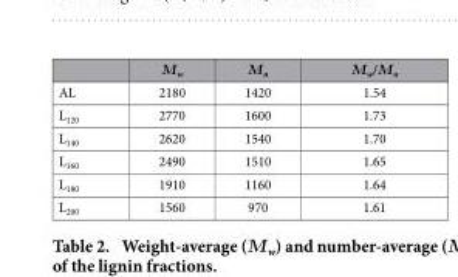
<table><thead><tr><td></td><td>Μ<sub>w</sub></td><td>Μ<sub>n</sub></td><td>Μ<sub>w</sub>/Μ<sub>n</sub></td></tr></thead><tbody><tr><td>AL</td><td>2180</td><td>1420</td><td>1.54</td></tr><tr><td>L<sub>120</sub></td><td>2770</td><td>1600</td><td>1.73</td></tr><tr><td>L<sub>140</sub></td><td>2620</td><td>1540</td><td>1.70</td></tr><tr><td>L<sub>160</sub></td><td>2490</td><td>1510</td><td>1.65</td></tr><tr><td>L<sub>180</sub></td><td>1910</td><td>1160</td><td>1.64</td></tr><tr><td>L<sub>200</sub></td><td>1560</td><td>970</td><td>1.61</td></tr></tbody></table>